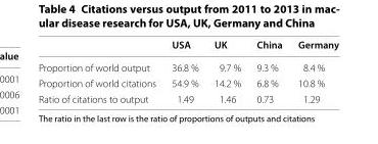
<table><thead><tr><td></td><td>USA</td><td>UK</td><td>China</td><td>Germany</td></tr></thead><tbody><tr><td>Proportion of world output</td><td>36.8 %</td><td>9.7 %</td><td>9.3 %</td><td>8.4 %</td></tr><tr><td>Proportion of world citations</td><td>54.9 %</td><td>14.2 %</td><td>6.8 %</td><td>10.8 %</td></tr><tr><td>Ratio of citations to output</td><td>1.49</td><td>1.46</td><td>0.73</td><td>1.29</td></tr></tbody></table>